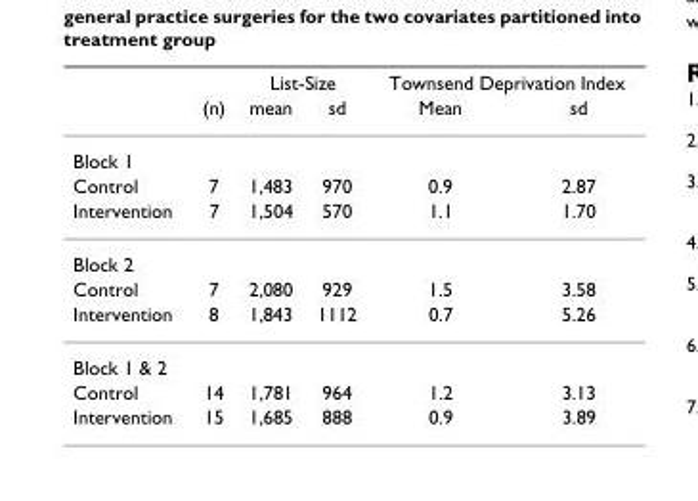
<table><thead><tr><td rowspan="2"></td><td rowspan="2">(n)</td><td colspan="2">List-Size</td><td colspan="2">Townsend Deprivation Index</td></tr><tr><td>mean</td><td>sd</td><td>Mean</td><td>sd</td></tr></thead><tbody><tr><td colspan="6">Block 1</td></tr><tr><td>Control</td><td>7</td><td>1,483</td><td>970</td><td>0.9</td><td>2.87</td></tr><tr><td>Intervention</td><td>7</td><td>1,504</td><td>570</td><td>1.1</td><td>1.70</td></tr><tr><td colspan="6">Block 2</td></tr><tr><td>Control</td><td>7</td><td>2,080</td><td>929</td><td>1.5</td><td>3.58</td></tr><tr><td>Intervention</td><td>8</td><td>1,843</td><td>1112</td><td>0.7</td><td>5.26</td></tr><tr><td colspan="6">Block 1 &amp; 2</td></tr><tr><td>Control</td><td>14</td><td>1,781</td><td>964</td><td>1.2</td><td>3.13</td></tr><tr><td>Intervention</td><td>15</td><td>1,685</td><td>888</td><td>0.9</td><td>3.89</td></tr></tbody></table>